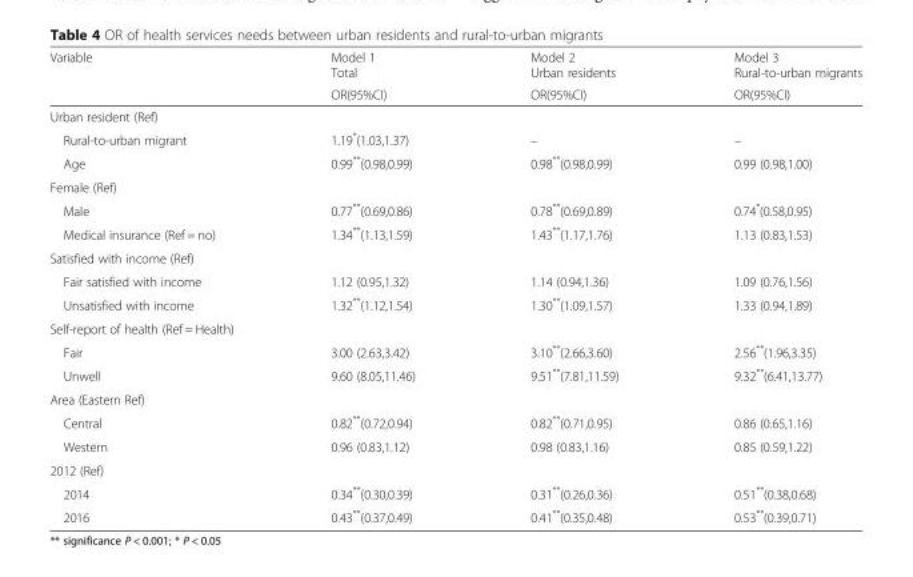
<table><thead><tr><td rowspan="2">Variable</td><td rowspan="2">Model 1 Total OR(95%CI)</td><td rowspan="2">Model 2 Urban residents OR(95%CI)</td><td rowspan="2">Model 3 Rural-to-urban migrants OR(95%CI)</td></tr><tr></tr></thead><tbody><tr><td colspan="4">Urban resident (Ref)</td></tr><tr><td>Rural-to-urban migrant</td><td>1.19*(1.03,1.37)</td><td>–</td><td>–</td></tr><tr><td>Age</td><td>0.99**(0.98,0.99)</td><td>0.98**(0.98,0.99)</td><td>0.99 (0.98,1.00)</td></tr><tr><td colspan="4">Female (Ref)</td></tr><tr><td>Male</td><td>0.77**(0.69,0.86)</td><td>0.78**(0.69,0.89)</td><td>0.74*(0.58,0.95)</td></tr><tr><td>Medical insurance (Ref = no)</td><td>1.34**(1.13,1.59)</td><td>1.43**(1.17,1.76)</td><td>1.13 (0.83,1.53)</td></tr><tr><td colspan="4">Satisfied with income (Ref)</td></tr><tr><td>Fair satisfied with income</td><td>1.12 (0.95,1.32)</td><td>1.14 (0.94,1.36)</td><td>1.09 (0.76,1.56)</td></tr><tr><td>Unsatisfied with income</td><td>1.32**(1.12,1.54)</td><td>1.30**(1.09,1.57)</td><td>1.33 (0.94,1.89)</td></tr><tr><td colspan="4">Self-report of health (Ref = Health)</td></tr><tr><td>Fair</td><td>3.00 (2.63,3.42)</td><td>3.10**(2.66,3.60)</td><td>2.56**(1.96,3.35)</td></tr><tr><td>Unwell</td><td>9.60 (8.05,11.46)</td><td>9.51**(7.81,11.59)</td><td>9.32**(6.41,13.77)</td></tr><tr><td colspan="4">Area (Eastern Ref)</td></tr><tr><td>Central</td><td>0.82**(0.72,0.94)</td><td>0.82**(0.71,0.95)</td><td>0.86 (0.65,1.16)</td></tr><tr><td>Western</td><td>0.96 (0.83,1.12)</td><td>0.98 (0.83,1.16)</td><td>0.85 (0.59,1.22)</td></tr><tr><td colspan="4">2012 (Ref)</td></tr><tr><td>2014</td><td>0.34**(0.30,0.39)</td><td>0.31**(0.26,0.36)</td><td>0.51**(0.38,0.68)</td></tr><tr><td>2016</td><td>0.43**(0.37,0.49)</td><td>0.41**(0.35,0.48)</td><td>0.53**(0.39,0.71)</td></tr></tbody></table>